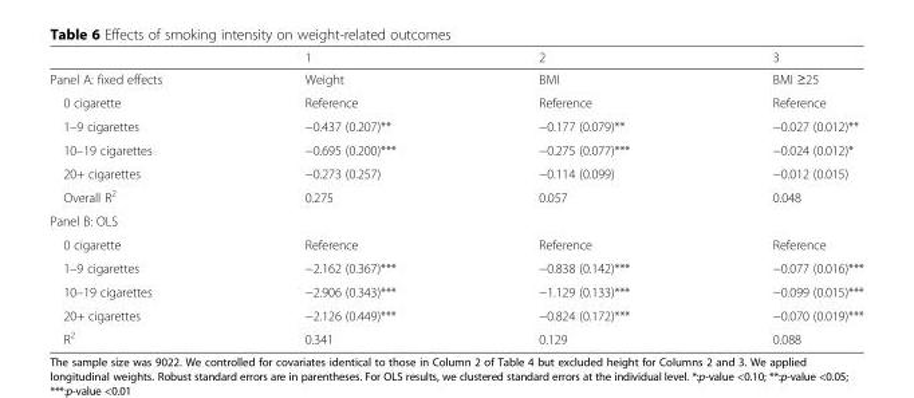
<table><thead><tr><td></td><td>1</td><td>2</td><td>3</td></tr></thead><tbody><tr><td>Panel A: fixed effects</td><td>Weight</td><td>BMI</td><td>BMI ≥25</td></tr><tr><td>0 cigarette</td><td>Reference</td><td>Reference</td><td>Reference</td></tr><tr><td>1–9 cigarettes</td><td>−0.437 (0.207)**</td><td>−0.177 (0.079)**</td><td>−0.027 (0.012)**</td></tr><tr><td>10–19 cigarettes</td><td>−0.695 (0.200)***</td><td>−0.275 (0.077)***</td><td>−0.024 (0.012)*</td></tr><tr><td>20+ cigarettes</td><td>−0.273 (0.257)</td><td>−0.114 (0.099)</td><td>−0.012 (0.015)</td></tr><tr><td>Overall R<sup>2</sup></td><td>0.275</td><td>0.057</td><td>0.048</td></tr><tr><td colspan="4">Panel B: OLS</td></tr><tr><td>0 cigarette</td><td>Reference</td><td>Reference</td><td>Reference</td></tr><tr><td>1–9 cigarettes</td><td>−2.162 (0.367)***</td><td>−0.838 (0.142)***</td><td>−0.077 (0.016)***</td></tr><tr><td>10–19 cigarettes</td><td>−2.906 (0.343)***</td><td>−1.129 (0.133)***</td><td>−0.099 (0.015)***</td></tr><tr><td>20+ cigarettes</td><td>−2.126 (0.449)***</td><td>−0.824 (0.172)***</td><td>−0.070 (0.019)***</td></tr><tr><td>R<sup>2</sup></td><td>0.341</td><td>0.129</td><td>0.088</td></tr></tbody></table>